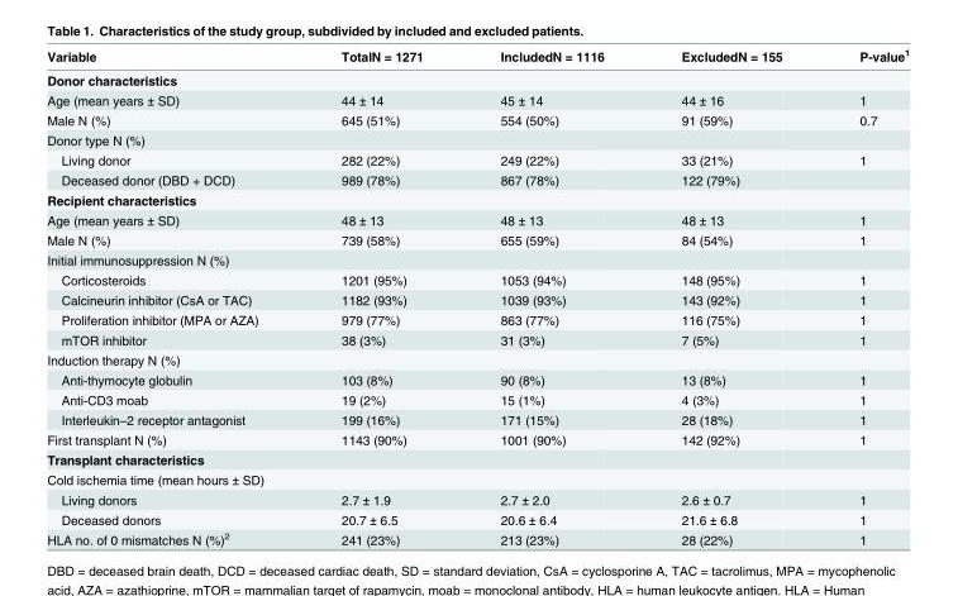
<table><thead><tr><td>Variable</td><td>TotalN = 1271</td><td>IncludedN = 1116</td><td>ExcludedN = 155</td><td>P-value<sup>1</sup></td></tr></thead><tbody><tr><td colspan="5">Donor characteristics</td></tr><tr><td>Age (mean years ± SD)</td><td>44 ± 14</td><td>45 ± 14</td><td>44 ± 16</td><td>1</td></tr><tr><td>Male N (%)</td><td>645 (51%)</td><td>554 (50%)</td><td>91 (59%)</td><td>0.7</td></tr><tr><td colspan="5">Donor type N (%)</td></tr><tr><td>Living donor</td><td>282 (22%)</td><td>249 (22%)</td><td>33 (21%)</td><td>1</td></tr><tr><td>Deceased donor (DBD + DCD)</td><td>989 (78%)</td><td>867 (78%)</td><td>122 (79%)</td><td></td></tr><tr><td colspan="5">Recipient characteristics</td></tr><tr><td>Age (mean years ± SD)</td><td>48 ± 13</td><td>48 ± 13</td><td>48 ± 13</td><td>1</td></tr><tr><td>Male N (%)</td><td>739 (58%)</td><td>655 (59%)</td><td>84 (54%)</td><td>1</td></tr><tr><td colspan="5">Initial immunosuppression N (%)</td></tr><tr><td>Corticosteroids</td><td>1201 (95%)</td><td>1053 (94%)</td><td>148 (95%)</td><td>1</td></tr><tr><td>Calcineurin inhibitor (CsA or TAC)</td><td>1182 (93%)</td><td>1039 (93%)</td><td>143 (92%)</td><td>1</td></tr><tr><td>Proliferation inhibitor (MPA or AZA)</td><td>979 (77%)</td><td>863 (77%)</td><td>116 (75%)</td><td>1</td></tr><tr><td>mTOR inhibitor</td><td>38 (3%)</td><td>31 (3%)</td><td>7 (5%)</td><td>1</td></tr><tr><td colspan="5">Induction therapy N (%)</td></tr><tr><td>Anti-thymocyte globulin</td><td>103 (8%)</td><td>90 (8%)</td><td>13 (8%)</td><td>1</td></tr><tr><td>Anti-CD3 moab</td><td>19 (2%)</td><td>15 (1%)</td><td>4 (3%)</td><td>1</td></tr><tr><td>Interleukin–2 receptor antagonist</td><td>199 (16%)</td><td>171 (15%)</td><td>28 (18%)</td><td>1</td></tr><tr><td>First transplant N (%)</td><td>1143 (90%)</td><td>1001 (90%)</td><td>142 (92%)</td><td>1</td></tr><tr><td colspan="5">Transplant characteristics</td></tr><tr><td colspan="5">Cold ischemia time (mean hours ± SD)</td></tr><tr><td>Living donors</td><td>2.7 ± 1.9</td><td>2.7 ± 2.0</td><td>2.6 ± 0.7</td><td>1</td></tr><tr><td>Deceased donors</td><td>20.7 ± 6.5</td><td>20.6 ± 6.4</td><td>21.6 ± 6.8</td><td>1</td></tr><tr><td>HLA no. of 0 mismatches N (%)<sup>2</sup></td><td>241 (23%)</td><td>213 (23%)</td><td>28 (22%)</td><td>1</td></tr></tbody></table>